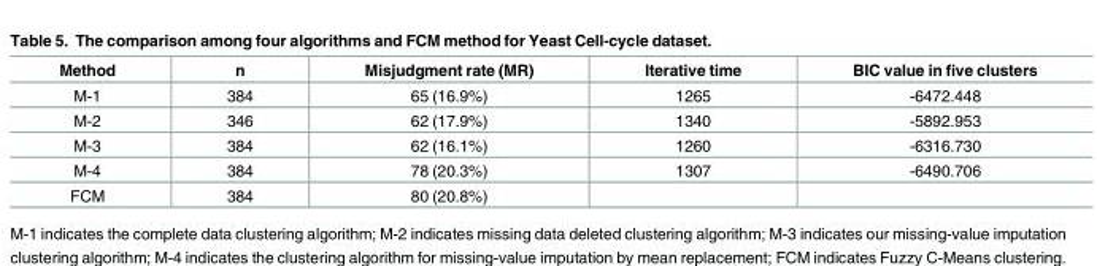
<table><thead><tr><td>Method</td><td>n</td><td>Misjudgment rate (MR)</td><td>Iterative time</td><td>BIC value in five clusters</td></tr></thead><tbody><tr><td>M-1</td><td>384</td><td>65 (16.9%)</td><td>1265</td><td>-6472.448</td></tr><tr><td>M-2</td><td>346</td><td>62 (17.9%)</td><td>1340</td><td>-5892.953</td></tr><tr><td>M-3</td><td>384</td><td>62 (16.1%)</td><td>1260</td><td>-6316.730</td></tr><tr><td>M-4</td><td>384</td><td>78 (20.3%)</td><td>1307</td><td>-6490.706</td></tr><tr><td>FCM</td><td>384</td><td>80 (20.8%)</td><td></td><td></td></tr></tbody></table>